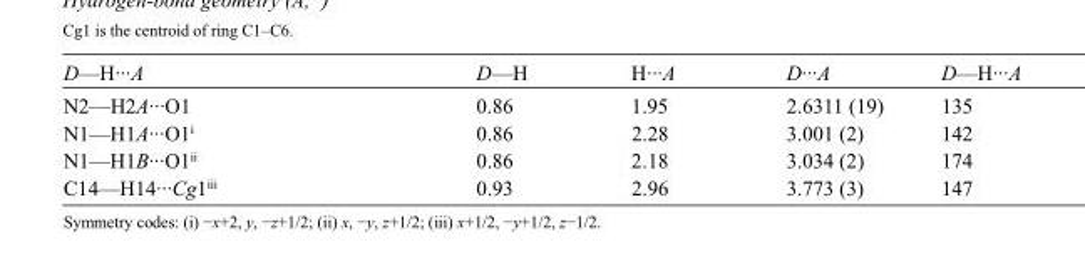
<table><tbody><tr><td>D—H···A</td><td>D—H</td><td>H···A</td><td>D···A</td><td>D—H···A</td></tr><tr><td>N2—H2A···O1</td><td>0.86</td><td>1.95</td><td>2.6311 (19)</td><td>135</td></tr><tr><td>N1—H1A···O1<sup>i</sup></td><td>0.86</td><td>2.28</td><td>3.001 (2)</td><td>142</td></tr><tr><td>N1—H1B···O1<sup>ii</sup></td><td>0.86</td><td>2.18</td><td>3.034 (2)</td><td>174</td></tr><tr><td>C14—H14···Cg1<sup>iii</sup></td><td>0.93</td><td>2.96</td><td>3.773 (3)</td><td>147</td></tr></tbody></table>